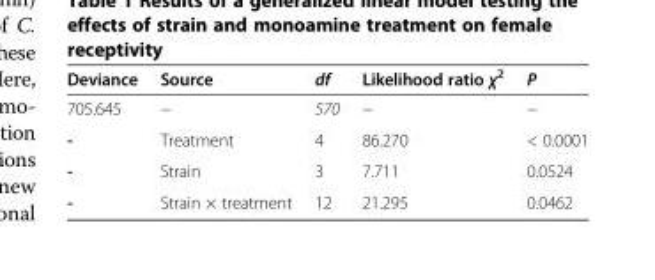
<table><thead><tr><td>Deviance</td><td>Source</td><td>df</td><td>Likelihood ratio χ<sup>2</sup></td><td>P</td></tr></thead><tbody><tr><td>705.645</td><td>−</td><td>570</td><td>−</td><td>−</td></tr><tr><td>-</td><td>Treatment</td><td>4</td><td>86.270</td><td>&lt; 0.0001</td></tr><tr><td>-</td><td>Strain</td><td>3</td><td>7.711</td><td>0.0524</td></tr><tr><td>-</td><td>Strain × treatment</td><td>12</td><td>21.295</td><td>0.0462</td></tr></tbody></table>